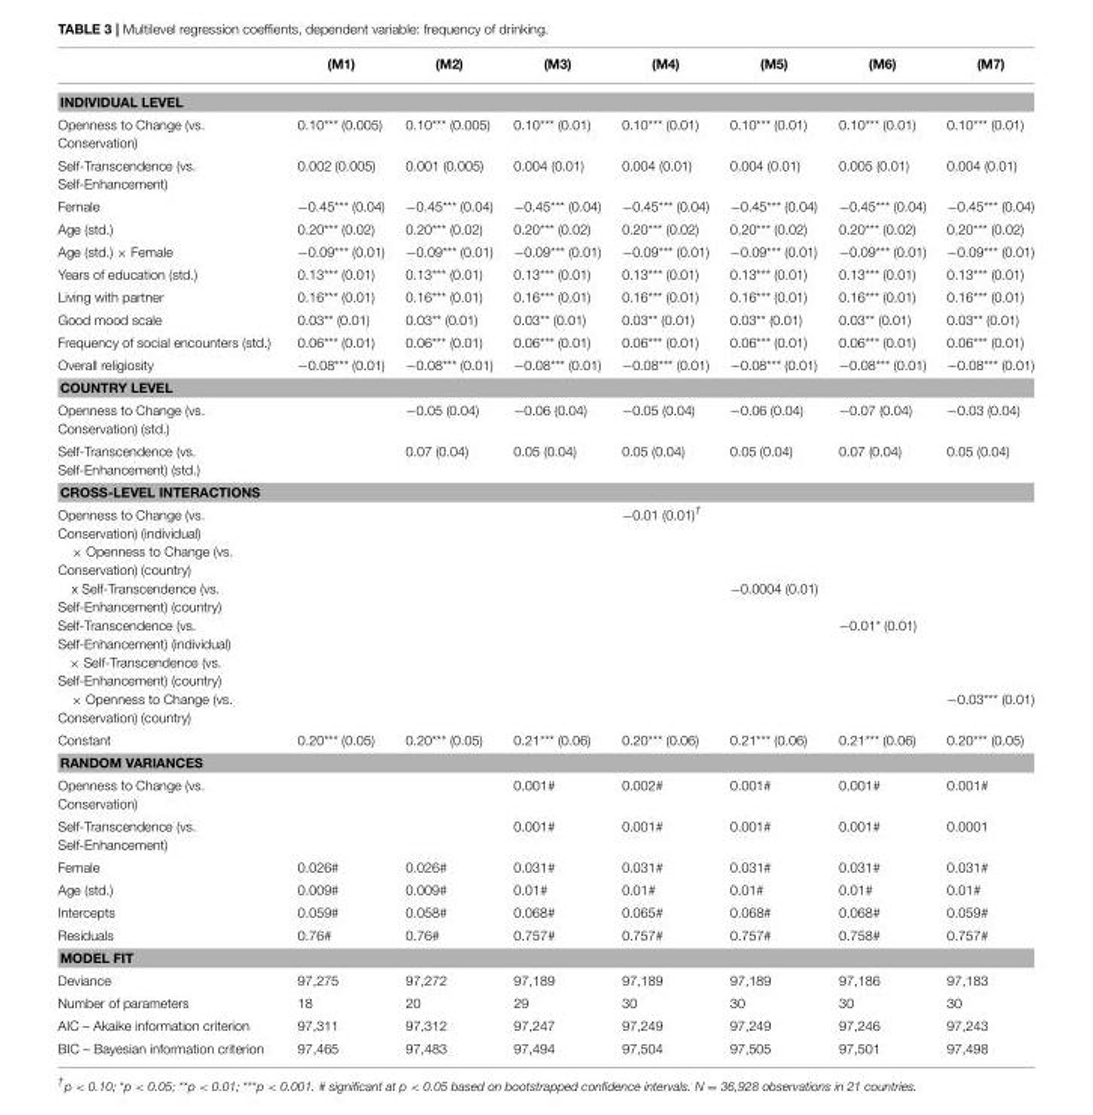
<table><thead><tr><td></td><td>(M1)</td><td>(M2)</td><td>(M3)</td><td>(M4)</td><td>(M5)</td><td>(M6)</td><td>(M7)</td></tr></thead><tbody><tr><td colspan="8">INDIVIDUAL LEVEL</td></tr><tr><td>Openness to Change (vs. Conservation)</td><td>0.10*** (0.005)</td><td>0.10*** (0.005)</td><td>0.10*** (0.01)</td><td>0.10*** (0.01)</td><td>0.10*** (0.01)</td><td>0.10*** (0.01)</td><td>0.10*** (0.01)</td></tr><tr><td>Self-Transcendence (vs. Self-Enhancement)</td><td>0.002 (0.005)</td><td>0.001 (0.005)</td><td>0.004 (0.01)</td><td>0.004 (0.01)</td><td>0.004 (0.01)</td><td>0.005 (0.01)</td><td>0.004 (0.01)</td></tr><tr><td>Female</td><td>−0.45*** (0.04)</td><td>−0.45*** (0.04)</td><td>−0.45*** (0.04)</td><td>−0.45*** (0.04)</td><td>−0.45*** (0.04)</td><td>−0.45*** (0.04)</td><td>−0.45*** (0.04)</td></tr><tr><td>Age (std.)</td><td>0.20*** (0.02)</td><td>0.20*** (0.02)</td><td>0.20*** (0.02)</td><td>0.20*** (0.02)</td><td>0.20*** (0.02)</td><td>0.20*** (0.02)</td><td>0.20*** (0.02)</td></tr><tr><td>Age (std.) × Female</td><td>−0.09*** (0.01)</td><td>−0.09*** (0.01)</td><td>−0.09*** (0.01)</td><td>−0.09*** (0.01)</td><td>−0.09*** (0.01)</td><td>−0.09*** (0.01)</td><td>−0.09*** (0.01)</td></tr><tr><td>Years of education (std.)</td><td>0.13*** (0.01)</td><td>0.13*** (0.01)</td><td>0.13*** (0.01)</td><td>0.13*** (0.01)</td><td>0.13*** (0.01)</td><td>0.13*** (0.01)</td><td>0.13*** (0.01)</td></tr><tr><td>Living with partner</td><td>0.16*** (0.01)</td><td>0.16*** (0.01)</td><td>0.16*** (0.01)</td><td>0.16*** (0.01)</td><td>0.16*** (0.01)</td><td>0.16*** (0.01)</td><td>0.16*** (0.01)</td></tr><tr><td>Good mood scale</td><td>0.03** (0.01)</td><td>0.03** (0.01)</td><td>0.03** (0.01)</td><td>0.03** (0.01)</td><td>0.03** (0.01)</td><td>0.03** (0.01)</td><td>0.03** (0.01)</td></tr><tr><td>Frequency of social encounters (std.)</td><td>0.06*** (0.01)</td><td>0.06*** (0.01)</td><td>0.06*** (0.01)</td><td>0.06*** (0.01)</td><td>0.06*** (0.01)</td><td>0.06*** (0.01)</td><td>0.06*** (0.01)</td></tr><tr><td>Overall religiosity</td><td>−0.08*** (0.01)</td><td>−0.08*** (0.01)</td><td>−0.08*** (0.01)</td><td>−0.08*** (0.01)</td><td>−0.08*** (0.01)</td><td>−0.08*** (0.01)</td><td>−0.08*** (0.01)</td></tr><tr><td colspan="8">COUNTRY LEVEL</td></tr><tr><td>Openness to Change (vs. Conservation) (std.)</td><td></td><td>−0.05 (0.04)</td><td>−0.06 (0.04)</td><td>−0.05 (0.04)</td><td>−0.06 (0.04)</td><td>−0.07 (0.04)</td><td>−0.03 (0.04)</td></tr><tr><td>Self-Transcendence (vs. Self-Enhancement) (std.)</td><td></td><td>0.07 (0.04)</td><td>0.05 (0.04)</td><td>0.05 (0.04)</td><td>0.05 (0.04)</td><td>0.07 (0.04)</td><td>0.05 (0.04)</td></tr><tr><td colspan="8">CROSS-LEVEL INTERACTIONS</td></tr><tr><td>Openness to Change (vs. Conservation) (individual) × Openness to Change (vs. Conservation) (country)</td><td></td><td></td><td></td><td>−0.01 (0.01)<sup>†</sup></td><td></td><td></td><td></td></tr><tr><td>x Self-Transcendence (vs. Self-Enhancement) (country)</td><td></td><td></td><td></td><td></td><td>−0.0004 (0.01)</td><td></td><td></td></tr><tr><td>Self-Transcendence (vs. Self-Enhancement) (individual) × Self-Transcendence (vs. Self-Enhancement) (country)</td><td></td><td></td><td></td><td></td><td></td><td>−0.01* (0.01)</td><td></td></tr><tr><td>× Openness to Change (vs. Conservation) (country)</td><td></td><td></td><td></td><td></td><td></td><td></td><td>−0.03*** (0.01)</td></tr><tr><td>Constant</td><td>0.20*** (0.05)</td><td>0.20*** (0.05)</td><td>0.21*** (0.06)</td><td>0.20*** (0.06)</td><td>0.21*** (0.06)</td><td>0.21*** (0.06)</td><td>0.20*** (0.05)</td></tr><tr><td colspan="8">RANDOM VARIANCES</td></tr><tr><td>Openness to Change (vs. Conservation)</td><td></td><td></td><td>0.001#</td><td>0.002#</td><td>0.001#</td><td>0.001#</td><td>0.001#</td></tr><tr><td>Self-Transcendence (vs. Self-Enhancement)</td><td></td><td></td><td>0.001#</td><td>0.001#</td><td>0.001#</td><td>0.001#</td><td>0.0001</td></tr><tr><td>Female</td><td>0.026#</td><td>0.026#</td><td>0.031#</td><td>0.031#</td><td>0.031#</td><td>0.031#</td><td>0.031#</td></tr><tr><td>Age (std.)</td><td>0.009#</td><td>0.009#</td><td>0.01#</td><td>0.01#</td><td>0.01#</td><td>0.01#</td><td>0.01#</td></tr><tr><td>Intercepts</td><td>0.059#</td><td>0.058#</td><td>0.068#</td><td>0.065#</td><td>0.068#</td><td>0.068#</td><td>0.059#</td></tr><tr><td>Residuals</td><td>0.76#</td><td>0.76#</td><td>0.757#</td><td>0.757#</td><td>0.757#</td><td>0.758#</td><td>0.757#</td></tr><tr><td colspan="8">MODEL FIT</td></tr><tr><td>Deviance</td><td>97,275</td><td>97,272</td><td>97,189</td><td>97,189</td><td>97,189</td><td>97,186</td><td>97,183</td></tr><tr><td>Number of parameters</td><td>18</td><td>20</td><td>29</td><td>30</td><td>30</td><td>30</td><td>30</td></tr><tr><td>AIC – Akaike information criterion</td><td>97,311</td><td>97,312</td><td>97,247</td><td>97,249</td><td>97,249</td><td>97,246</td><td>97,243</td></tr><tr><td>BIC – Bayesian information criterion</td><td>97,465</td><td>97,483</td><td>97,494</td><td>97,504</td><td>97,505</td><td>97,501</td><td>97,498</td></tr></tbody></table>